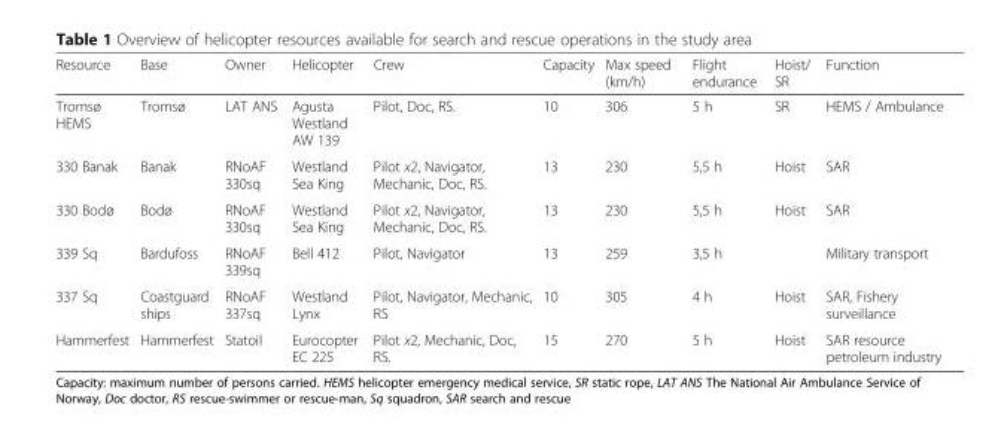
<table><thead><tr><td>Resource</td><td>Base</td><td>Owner</td><td>Helicopter</td><td>Crew</td><td>Capacity</td><td>Max speed (km/h)</td><td>Flight endurance</td><td>Hoist/ SR</td><td>Function</td></tr></thead><tbody><tr><td>Tromsø HEMS</td><td>Tromsø</td><td>LAT ANS</td><td>Agusta Westland AW 139</td><td>Pilot, Doc, RS.</td><td>10</td><td>306</td><td>5 h</td><td>SR</td><td>HEMS / Ambulance</td></tr><tr><td>330 Banak</td><td>Banak</td><td>RNoAF 330sq</td><td>Westland Sea King</td><td>Pilot x2, Navigator, Mechanic, Doc, RS.</td><td>13</td><td>230</td><td>5,5 h</td><td>Hoist</td><td>SAR</td></tr><tr><td>330 Bodø</td><td>Bodø</td><td>RNoAF 330sq</td><td>Westland Sea King</td><td>Pilot x2, Navigator, Mechanic, Doc, RS.</td><td>13</td><td>230</td><td>5,5 h</td><td>Hoist</td><td>SAR</td></tr><tr><td>339 Sq</td><td>Bardufoss</td><td>RNoAF 339sq</td><td>Bell 412</td><td>Pilot, Navigator</td><td>13</td><td>259</td><td>3,5 h</td><td></td><td>Military transport</td></tr><tr><td>337 Sq</td><td>Coastguard ships</td><td>RNoAF 337sq</td><td>Westland Lynx</td><td>Pilot, Navigator, Mechanic, RS</td><td>10</td><td>305</td><td>4 h</td><td>Hoist</td><td>SAR, Fishery surveillance</td></tr><tr><td>Hammerfest</td><td>Hammerfest</td><td>Statoil</td><td>Eurocopter EC 225</td><td>Pilot x2, Mechanic, Doc, RS.</td><td>15</td><td>270</td><td>5 h</td><td>Hoist</td><td>SAR resource petroleum industry</td></tr></tbody></table>